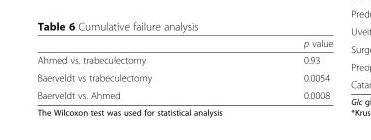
<table><thead><tr><td></td><td>p value</td></tr></thead><tbody><tr><td>Ahmed vs. trabeculectomy</td><td>0.93</td></tr><tr><td>Baerveldt vs trabeculectomy</td><td>0.0054</td></tr><tr><td>Baerveldt vs. Ahmed</td><td>0.0008</td></tr></tbody></table>